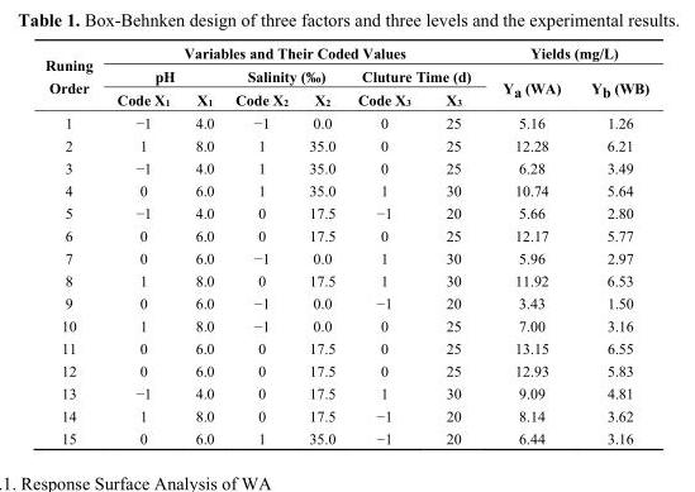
<table><thead><tr><td rowspan="3">Runing Order</td><td colspan="6">Variables and Their Coded Values</td><td colspan="2">Yields (mg/L)</td></tr><tr><td colspan="2">pH</td><td colspan="2">Salinity (‰)</td><td colspan="2">Cluture Time (d)</td><td rowspan="2">Y<sub>a</sub> (WA)</td><td rowspan="2">Y<sub>b</sub> (WB)</td></tr><tr><td>Code X<sub>1</sub></td><td>X<sub>1</sub></td><td>Code X<sub>2</sub></td><td>X<sub>2</sub></td><td>Code X<sub>3</sub></td><td>X<sub>3</sub></td></tr></thead><tbody><tr><td>1</td><td>−1</td><td>4.0</td><td>−1</td><td>0.0</td><td>0</td><td>25</td><td>5.16</td><td>1.26</td></tr><tr><td>2</td><td>1</td><td>8.0</td><td>1</td><td>35.0</td><td>0</td><td>25</td><td>12.28</td><td>6.21</td></tr><tr><td>3</td><td>−1</td><td>4.0</td><td>1</td><td>35.0</td><td>0</td><td>25</td><td>6.28</td><td>3.49</td></tr><tr><td>4</td><td>0</td><td>6.0</td><td>1</td><td>35.0</td><td>1</td><td>30</td><td>10.74</td><td>5.64</td></tr><tr><td>5</td><td>−1</td><td>4.0</td><td>0</td><td>17.5</td><td>−1</td><td>20</td><td>5.66</td><td>2.80</td></tr><tr><td>6</td><td>0</td><td>6.0</td><td>0</td><td>17.5</td><td>0</td><td>25</td><td>12.17</td><td>5.77</td></tr><tr><td>7</td><td>0</td><td>6.0</td><td>−1</td><td>0.0</td><td>1</td><td>30</td><td>5.96</td><td>2.97</td></tr><tr><td>8</td><td>1</td><td>8.0</td><td>0</td><td>17.5</td><td>1</td><td>30</td><td>11.92</td><td>6.53</td></tr><tr><td>9</td><td>0</td><td>6.0</td><td>−1</td><td>0.0</td><td>−1</td><td>20</td><td>3.43</td><td>1.50</td></tr><tr><td>10</td><td>1</td><td>8.0</td><td>−1</td><td>0.0</td><td>0</td><td>25</td><td>7.00</td><td>3.16</td></tr><tr><td>11</td><td>0</td><td>6.0</td><td>0</td><td>17.5</td><td>0</td><td>25</td><td>13.15</td><td>6.55</td></tr><tr><td>12</td><td>0</td><td>6.0</td><td>0</td><td>17.5</td><td>0</td><td>25</td><td>12.93</td><td>5.83</td></tr><tr><td>13</td><td>−1</td><td>4.0</td><td>0</td><td>17.5</td><td>1</td><td>30</td><td>9.09</td><td>4.81</td></tr><tr><td>14</td><td>1</td><td>8.0</td><td>0</td><td>17.5</td><td>−1</td><td>20</td><td>8.14</td><td>3.62</td></tr><tr><td>15</td><td>0</td><td>6.0</td><td>1</td><td>35.0</td><td>−1</td><td>20</td><td>6.44</td><td>3.16</td></tr></tbody></table>